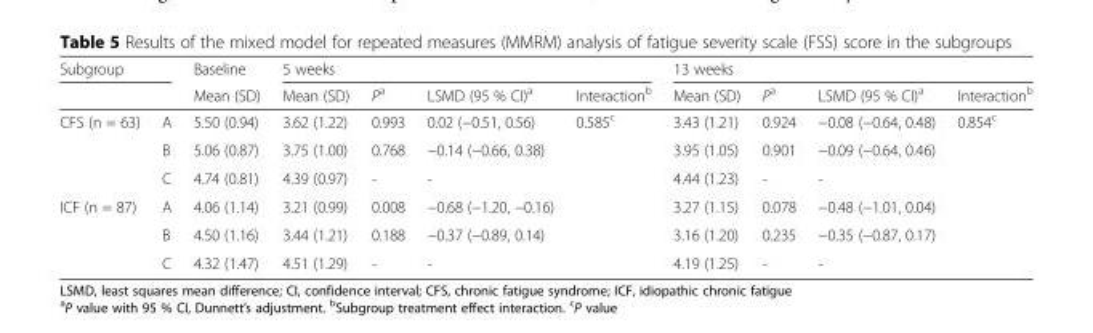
<table><thead><tr><td colspan="2">Subgroup</td><td rowspan="2">Baseline Mean (SD)</td><td colspan="4">5 weeks</td><td colspan="4">13 weeks</td></tr><tr><td></td><td></td><td>Mean (SD)</td><td>P<sup>a</sup></td><td>LSMD (95 % CI)<sup>a</sup></td><td>Interaction<sup>b</sup></td><td>Mean (SD)</td><td>P<sup>a</sup></td><td>LSMD (95 % CI)<sup>a</sup></td><td>Interaction<sup>b</sup></td></tr></thead><tbody><tr><td rowspan="3">CFS (n = 63)</td><td>A</td><td>5.50 (0.94)</td><td>3.62 (1.22)</td><td>0.993</td><td>0.02 (−0.51, 0.56)</td><td rowspan="6">0.585<sup>c</sup></td><td>3.43 (1.21)</td><td>0.924</td><td>−0.08 (−0.64, 0.48)</td><td rowspan="6">0.854<sup>c</sup></td></tr><tr><td>B</td><td>5.06 (0.87)</td><td>3.75 (1.00)</td><td>0.768</td><td>−0.14 (−0.66, 0.38)</td><td>3.95 (1.05)</td><td>0.901</td><td>−0.09 (−0.64, 0.46)</td></tr><tr><td>C</td><td>4.74 (0.81)</td><td>4.39 (0.97)</td><td>-</td><td>-</td><td>4.44 (1.23)</td><td>-</td><td>-</td></tr><tr><td rowspan="3">ICF (n = 87)</td><td>A</td><td>4.06 (1.14)</td><td>3.21 (0.99)</td><td>0.008</td><td>−0.68 (−1.20, −0.16)</td><td>3.27 (1.15)</td><td>0.078</td><td>−0.48 (−1.01, 0.04)</td></tr><tr><td>B</td><td>4.50 (1.16)</td><td>3.44 (1.21)</td><td>0.188</td><td>−0.37 (−0.89, 0.14)</td><td>3.16 (1.20)</td><td>0.235</td><td>−0.35 (−0.87, 0.17)</td></tr><tr><td>C</td><td>4.32 (1.47)</td><td>4.51 (1.29)</td><td>-</td><td>-</td><td>4.19 (1.25)</td><td>-</td><td>-</td></tr></tbody></table>